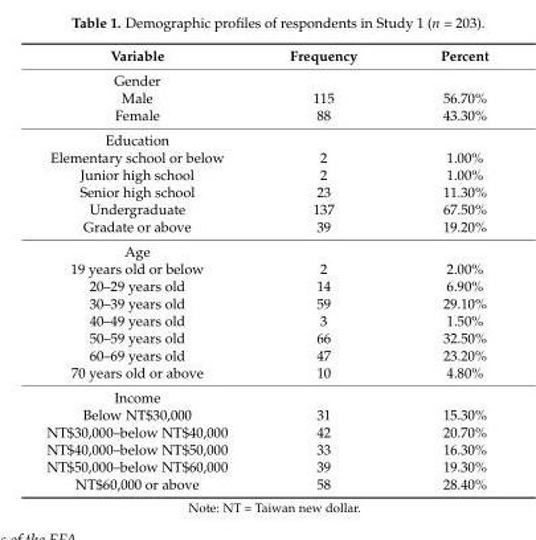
<table><thead><tr><td>Variable</td><td>Frequency</td><td>Percent</td></tr></thead><tbody><tr><td colspan="3">Gender</td></tr><tr><td>Male</td><td>115</td><td>56.70%</td></tr><tr><td>Female</td><td>88</td><td>43.30%</td></tr><tr><td colspan="3">Education</td></tr><tr><td>Elementary school or below</td><td>2</td><td>1.00%</td></tr><tr><td>Junior high school</td><td>2</td><td>1.00%</td></tr><tr><td>Senior high school</td><td>23</td><td>11.30%</td></tr><tr><td>Undergraduate</td><td>137</td><td>67.50%</td></tr><tr><td>Gradate or above</td><td>39</td><td>19.20%</td></tr><tr><td colspan="3">Age</td></tr><tr><td>19 years old or below</td><td>2</td><td>2.00%</td></tr><tr><td>20–29 years old</td><td>14</td><td>6.90%</td></tr><tr><td>30–39 years old</td><td>59</td><td>29.10%</td></tr><tr><td>40–49 years old</td><td>3</td><td>1.50%</td></tr><tr><td>50–59 years old</td><td>66</td><td>32.50%</td></tr><tr><td>60–69 years old</td><td>47</td><td>23.20%</td></tr><tr><td>70 years old or above</td><td>10</td><td>4.80%</td></tr><tr><td colspan="3">Income</td></tr><tr><td>Below NT$30,000</td><td>31</td><td>15.30%</td></tr><tr><td>NT$30,000–below NT$40,000</td><td>42</td><td>20.70%</td></tr><tr><td>NT$40,000–below NT$50,000</td><td>33</td><td>16.30%</td></tr><tr><td>NT$50,000–below NT$60,000</td><td>39</td><td>19.30%</td></tr><tr><td>NT$60,000 or above</td><td>58</td><td>28.40%</td></tr></tbody></table>